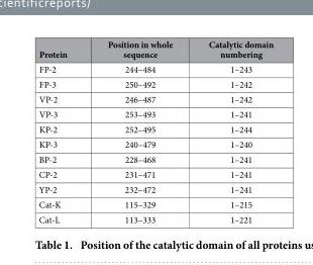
<table><thead><tr><td>Protein</td><td>Position in whole sequence</td><td>Catalytic domain numbering</td></tr></thead><tbody><tr><td>FP-2</td><td>244–484</td><td>1–243</td></tr><tr><td>FP-3</td><td>250–492</td><td>1–242</td></tr><tr><td>VP-2</td><td>246–487</td><td>1–242</td></tr><tr><td>VP-3</td><td>253–493</td><td>1–241</td></tr><tr><td>KP-2</td><td>252–495</td><td>1–244</td></tr><tr><td>KP-3</td><td>240–479</td><td>1–240</td></tr><tr><td>BP-2</td><td>228–468</td><td>1–241</td></tr><tr><td>CP-2</td><td>231–471</td><td>1–241</td></tr><tr><td>YP-2</td><td>232–472</td><td>1–241</td></tr><tr><td>Cat-K</td><td>115–329</td><td>1–215</td></tr><tr><td>Cat-L</td><td>113–333</td><td>1–221</td></tr></tbody></table>